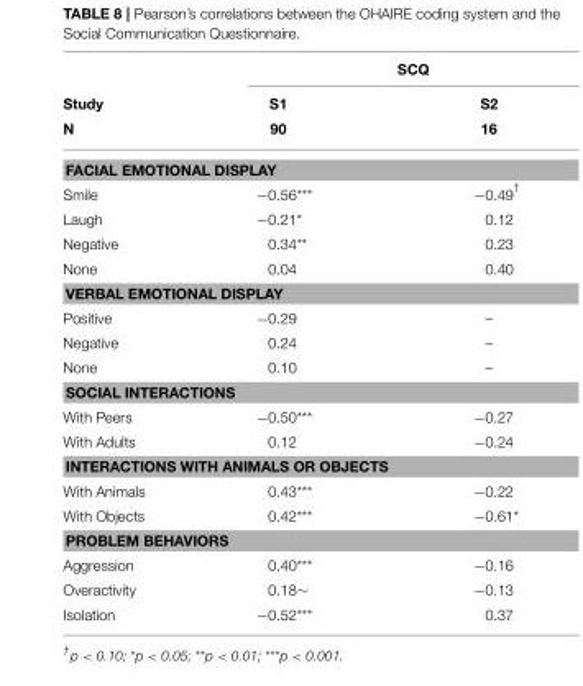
<table><thead><tr><td rowspan="3">Study N</td><td colspan="2">SCQ</td></tr><tr><td rowspan="2">S1 90</td><td rowspan="2">S2 16</td></tr><tr></tr></thead><tbody><tr><td colspan="3">FACIAL EMOTIONAL DISPLAY</td></tr><tr><td>Smile</td><td>−0.56***</td><td>−0.49 <sup>†</sup></td></tr><tr><td>Laugh</td><td>−0.21*</td><td>0.12</td></tr><tr><td>Negative</td><td>0.34**</td><td>0.23</td></tr><tr><td>None</td><td>0.04</td><td>0.40</td></tr><tr><td colspan="3">VERBAL EMOTIONAL DISPLAY</td></tr><tr><td>Positive</td><td>−0.29</td><td>–</td></tr><tr><td>Negative</td><td>0.24</td><td>–</td></tr><tr><td>None</td><td>0.10</td><td>–</td></tr><tr><td colspan="3">SOCIAL INTERACTIONS</td></tr><tr><td>With Peers</td><td>−0.50***</td><td>−0.27</td></tr><tr><td>With Adults</td><td>0.12</td><td>−0.24</td></tr><tr><td colspan="3">INTERACTIONS WITH ANIMALS OR OBJECTS</td></tr><tr><td>With Animals</td><td>0.43***</td><td>−0.22</td></tr><tr><td>With Objects</td><td>0.42***</td><td>−0.61*</td></tr><tr><td colspan="3">PROBLEM BEHAVIORS</td></tr><tr><td>Aggression</td><td>0.40***</td><td>−0.16</td></tr><tr><td>Overactivity</td><td>0.18∼</td><td>−0.13</td></tr><tr><td>Isolation</td><td>−0.52***</td><td>0.37</td></tr></tbody></table>